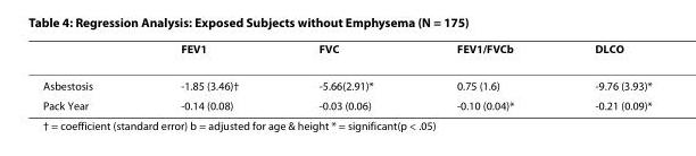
<table><thead><tr><td></td><td>FEV1</td><td>FVC</td><td>FEV1/FVCb</td><td>DLCO</td></tr></thead><tbody><tr><td>Asbestosis</td><td>-1.85 (3.46)†</td><td>-5.66(2.91)*</td><td>0.75 (1.6)</td><td>-9.76 (3.93)*</td></tr><tr><td>Pack Year</td><td>-0.14 (0.08)</td><td>-0.03 (0.06)</td><td>-0.10 (0.04)*</td><td>-0.21 (0.09)*</td></tr></tbody></table>